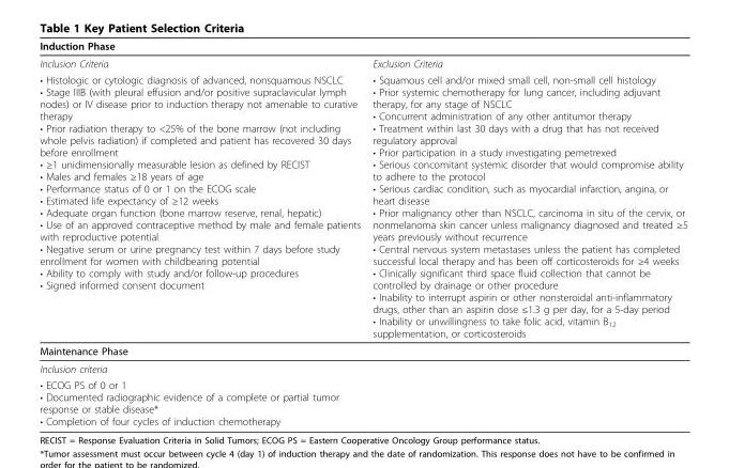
<table><thead><tr><td>Induction Phase</td><td></td></tr></thead><tbody><tr><td>Inclusion Criteria</td><td>Exclusion Criteria</td></tr><tr><td>• Histologic or cytologic diagnosis of advanced, nonsquamous NSCLC • Stage IIIB (with pleural effusion and/or positive supraclavicular lymph nodes) or IV disease prior to induction therapy not amenable to curative therapy • Prior radiation therapy to &lt;25% of the bone marrow (not including whole pelvis radiation) if completed and patient has recovered 30 days before enrollment • ≥1 unidimensionally measurable lesion as defined by RECIST • Males and females ≥18 years of age • Performance status of 0 or 1 on the ECOG scale • Estimated life expectancy of ≥12 weeks • Adequate organ function (bone marrow reserve, renal, hepatic) • Use of an approved contraceptive method by male and female patients with reproductive potential • Negative serum or urine pregnancy test within 7 days before study enrollment for women with childbearing potential • Ability to comply with study and/or follow-up procedures • Signed informed consent document</td><td>• Squamous cell and/or mixed small cell, non-small cell histology • Prior systemic chemotherapy for lung cancer, including adjuvant therapy, for any stage of NSCLC • Concurrent administration of any other antitumor therapy • Treatment within last 30 days with a drug that has not received regulatory approval • Prior participation in a study investigating pemetrexed • Serious concomitant systemic disorder that would compromise ability to adhere to the protocol • Serious cardiac condition, such as myocardial infarction, angina, or heart disease • Prior malignancy other than NSCLC, carcinoma in situ of the cervix, or nonmelanoma skin cancer unless malignancy diagnosed and treated ≥5 years previously without recurrence • Central nervous system metastases unless the patient has completed successful local therapy and has been off corticosteroids for ≥4 weeks • Clinically significant third space fluid collection that cannot be controlled by drainage or other procedure • Inability to interrupt aspirin or other nonsteroidal anti-inflammatory drugs, other than an aspirin dose ≤1.3 g per day, for a 5-day period • Inability or unwillingness to take folic acid, vitamin B<sub>12</sub> supplementation, or corticosteroids</td></tr><tr><td colspan="2">Maintenance Phase</td></tr><tr><td colspan="2">Inclusion criteria</td></tr><tr><td>• ECOG PS of 0 or 1 • Documented radiographic evidence of a complete or partial tumor response or stable disease* • Completion of four cycles of induction chemotherapy</td><td></td></tr></tbody></table>